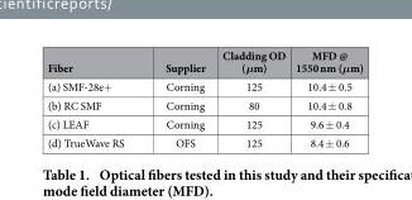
<table><thead><tr><td>Fiber</td><td>Supplier</td><td>Cladding OD (μm)</td><td>MFD @ 1550 nm (μm)</td></tr></thead><tbody><tr><td>(a) SMF-28e+</td><td>Corning</td><td>125</td><td>10.4 ± 0.5</td></tr><tr><td>(b) RC SMF</td><td>Corning</td><td>80</td><td>10.4 ± 0.8</td></tr><tr><td>(c) LEAF</td><td>Corning</td><td>125</td><td>9.6 ± 0.4</td></tr><tr><td>(d) TrueWave RS</td><td>OFS</td><td>125</td><td>8.4 ± 0.6</td></tr></tbody></table>